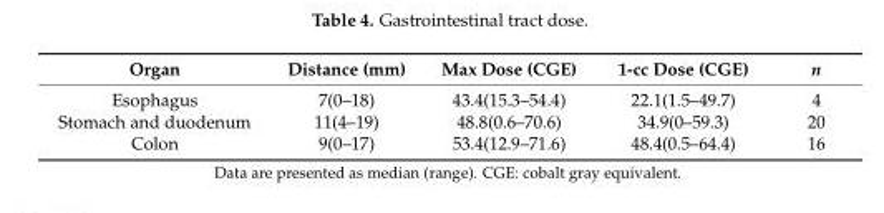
<table><thead><tr><td>Organ</td><td>Distance (mm)</td><td>Max Dose (CGE)</td><td>1-cc Dose (CGE)</td><td>n</td></tr></thead><tbody><tr><td>Esophagus</td><td>7(0–18)</td><td>43.4(15.3–54.4)</td><td>22.1(1.5–49.7)</td><td>4</td></tr><tr><td>Stomach and duodenum</td><td>11(4–19)</td><td>48.8(0.6–70.6)</td><td>34.9(0–59.3)</td><td>20</td></tr><tr><td>Colon</td><td>9(0–17)</td><td>53.4(12.9–71.6)</td><td>48.4(0.5–64.4)</td><td>16</td></tr></tbody></table>